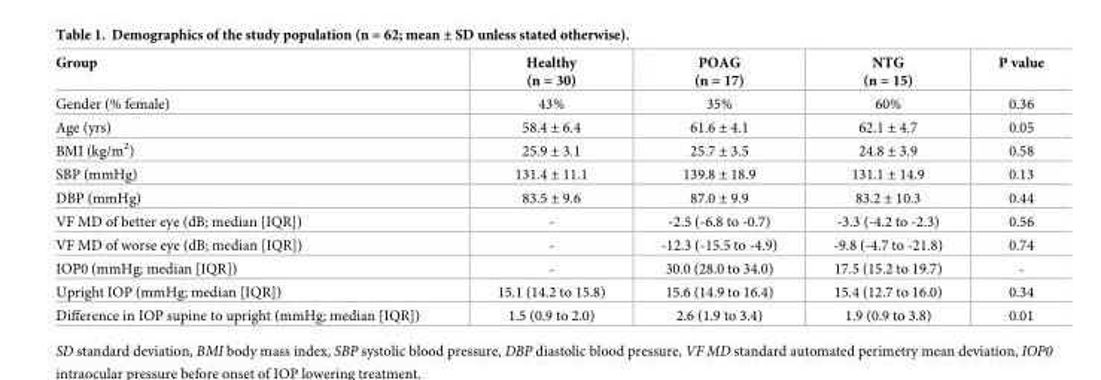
<table><thead><tr><td>Group</td><td>Healthy (n = 30)</td><td>POAG (n = 17)</td><td>NTG (n = 15)</td><td>P value</td></tr></thead><tbody><tr><td>Gender (% female)</td><td>43%</td><td>35%</td><td>60%</td><td>0.36</td></tr><tr><td>Age (yrs)</td><td>58.4 ± 6.4</td><td>61.6 ± 4.1</td><td>62.1 ± 4.7</td><td>0.05</td></tr><tr><td>BMI (kg/m<sup>2</sup>)</td><td>25.9 ± 3.1</td><td>25.7 ± 3.5</td><td>24.8 ± 3.9</td><td>0.58</td></tr><tr><td>SBP (mmHg)</td><td>131.4 ± 11.1</td><td>139.8 ± 18.9</td><td>131.1 ± 14.9</td><td>0.13</td></tr><tr><td>DBP (mmHg)</td><td>83.5 ± 9.6</td><td>87.0 ± 9.9</td><td>83.2 ± 10.3</td><td>0.44</td></tr><tr><td>VF MD of better eye (dB; median [IQR])</td><td>-</td><td>-2.5 (-6.8 to -0.7)</td><td>-3.3 (-4.2 to -2.3)</td><td>0.56</td></tr><tr><td>VF MD of worse eye (dB; median [IQR])</td><td>-</td><td>-12.3 (-15.5 to -4.9)</td><td>-9.8 (-4.7 to -21.8)</td><td>0.74</td></tr><tr><td>IOP0 (mmHg; median [IQR])</td><td>-</td><td>30.0 (28.0 to 34.0)</td><td>17.5 (15.2 to 19.7)</td><td>-</td></tr><tr><td>Upright IOP (mmHg; median [IQR])</td><td>15.1 (14.2 to 15.8)</td><td>15.6 (14.9 to 16.4)</td><td>15.4 (12.7 to 16.0)</td><td>0.34</td></tr><tr><td>Difference in IOP supine to upright (mmHg; median [IQR])</td><td>1.5 (0.9 to 2.0)</td><td>2.6 (1.9 to 3.4)</td><td>1.9 (0.9 to 3.8)</td><td>0.01</td></tr></tbody></table>